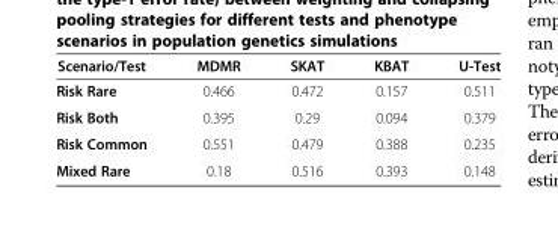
<table><thead><tr><td>Scenario/Test</td><td>MDMR</td><td>SKAT</td><td>KBAT</td><td>U-Test</td></tr></thead><tbody><tr><td>Risk Rare</td><td>0.466</td><td>0.472</td><td>0.157</td><td>0.511</td></tr><tr><td>Risk Both</td><td>0.395</td><td>0.29</td><td>0.094</td><td>0.379</td></tr><tr><td>Risk Common</td><td>0.551</td><td>0.479</td><td>0.388</td><td>0.235</td></tr><tr><td>Mixed Rare</td><td>0.18</td><td>0.516</td><td>0.393</td><td>0.148</td></tr></tbody></table>